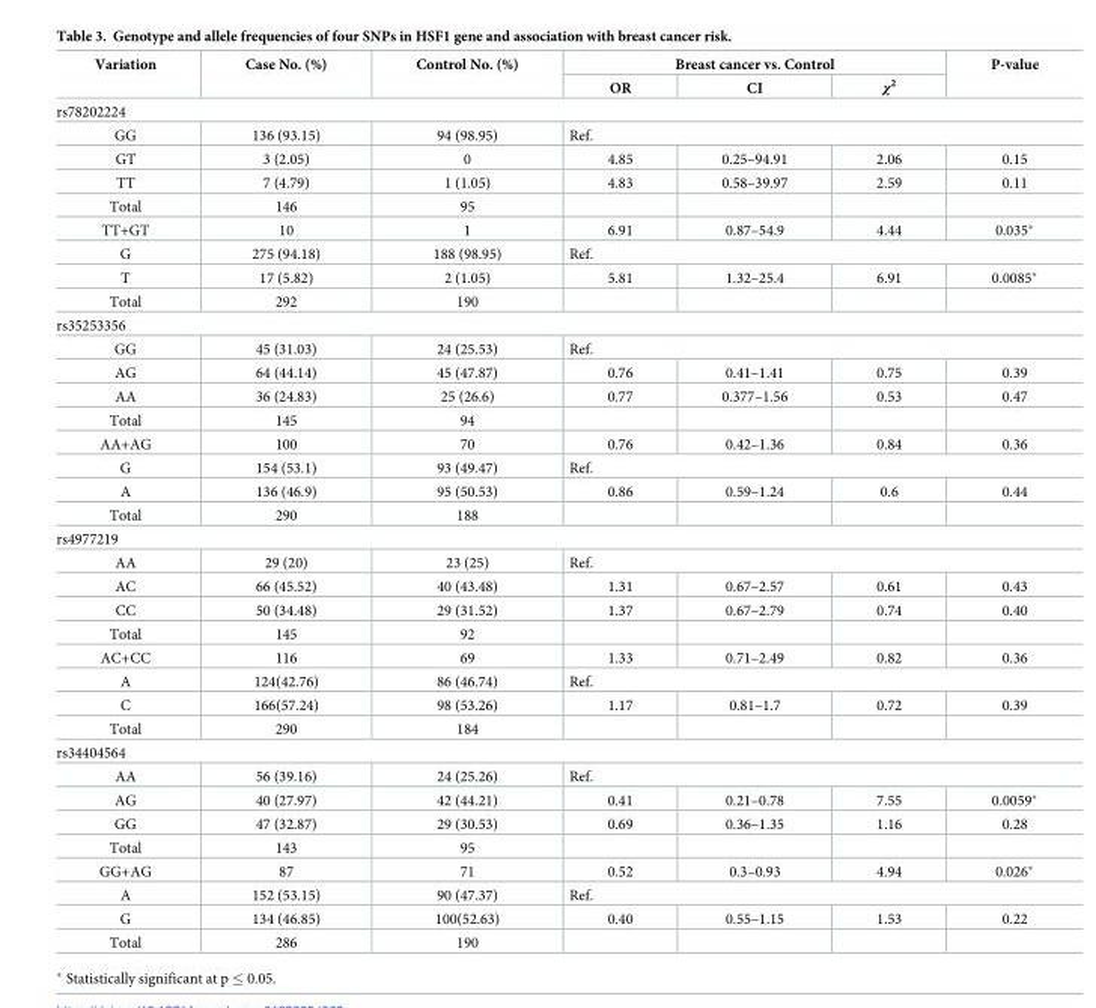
<table><thead><tr><td rowspan="2">Variation</td><td rowspan="2">Case No. (%)</td><td rowspan="2">Control No. (%)</td><td colspan="3">Breast cancer vs. Control</td><td rowspan="2">P-value</td></tr><tr><td>OR</td><td>CI</td><td>χ<sup>2</sup></td></tr></thead><tbody><tr><td colspan="7">rs78202224</td></tr><tr><td>GG</td><td>136 (93.15)</td><td>94 (98.95)</td><td colspan="4">Ref.</td></tr><tr><td>GT</td><td>3 (2.05)</td><td>0</td><td>4.85</td><td>0.25–94.91</td><td>2.06</td><td>0.15</td></tr><tr><td>TT</td><td>7 (4.79)</td><td>1 (1.05)</td><td>4.83</td><td>0.58–39.97</td><td>2.59</td><td>0.11</td></tr><tr><td>Total</td><td>146</td><td>95</td><td></td><td></td><td></td><td></td></tr><tr><td>TT+GT</td><td>10</td><td>1</td><td>6.91</td><td>0.87–54.9</td><td>4.44</td><td>0.035*</td></tr><tr><td>G</td><td>275 (94.18)</td><td>188 (98.95)</td><td colspan="4">Ref.</td></tr><tr><td>T</td><td>17 (5.82)</td><td>2 (1.05)</td><td>5.81</td><td>1.32–25.4</td><td>6.91</td><td>0.0085*</td></tr><tr><td>Total</td><td>292</td><td>190</td><td></td><td></td><td></td><td></td></tr><tr><td colspan="7">rs35253356</td></tr><tr><td>GG</td><td>45 (31.03)</td><td>24 (25.53)</td><td colspan="4">Ref.</td></tr><tr><td>AG</td><td>64 (44.14)</td><td>45 (47.87)</td><td>0.76</td><td>0.41–1.41</td><td>0.75</td><td>0.39</td></tr><tr><td>AA</td><td>36 (24.83)</td><td>25 (26.6)</td><td>0.77</td><td>0.377–1.56</td><td>0.53</td><td>0.47</td></tr><tr><td>Total</td><td>145</td><td>94</td><td></td><td></td><td></td><td></td></tr><tr><td>AA+AG</td><td>100</td><td>70</td><td>0.76</td><td>0.42–1.36</td><td>0.84</td><td>0.36</td></tr><tr><td>G</td><td>154 (53.1)</td><td>93 (49.47)</td><td colspan="4">Ref.</td></tr><tr><td>A</td><td>136 (46.9)</td><td>95 (50.53)</td><td>0.86</td><td>0.59–1.24</td><td>0.6</td><td>0.44</td></tr><tr><td>Total</td><td>290</td><td>188</td><td></td><td></td><td></td><td></td></tr><tr><td colspan="7">rs4977219</td></tr><tr><td>AA</td><td>29 (20)</td><td>23 (25)</td><td colspan="4">Ref.</td></tr><tr><td>AC</td><td>66 (45.52)</td><td>40 (43.48)</td><td>1.31</td><td>0.67–2.57</td><td>0.61</td><td>0.43</td></tr><tr><td>CC</td><td>50 (34.48)</td><td>29 (31.52)</td><td>1.37</td><td>0.67–2.79</td><td>0.74</td><td>0.40</td></tr><tr><td>Total</td><td>145</td><td>92</td><td></td><td></td><td></td><td></td></tr><tr><td>AC+CC</td><td>116</td><td>69</td><td>1.33</td><td>0.71–2.49</td><td>0.82</td><td>0.36</td></tr><tr><td>A</td><td>124(42.76)</td><td>86 (46.74)</td><td colspan="4">Ref.</td></tr><tr><td>C</td><td>166(57.24)</td><td>98 (53.26)</td><td>1.17</td><td>0.81–1.7</td><td>0.72</td><td>0.39</td></tr><tr><td>Total</td><td>290</td><td>184</td><td></td><td></td><td></td><td></td></tr><tr><td colspan="7">rs34404564</td></tr><tr><td>AA</td><td>56 (39.16)</td><td>24 (25.26)</td><td colspan="4">Ref.</td></tr><tr><td>AG</td><td>40 (27.97)</td><td>42 (44.21)</td><td>0.41</td><td>0.21–0.78</td><td>7.55</td><td>0.0059*</td></tr><tr><td>GG</td><td>47 (32.87)</td><td>29 (30.53)</td><td>0.69</td><td>0.36–1.35</td><td>1.16</td><td>0.28</td></tr><tr><td>Total</td><td>143</td><td>95</td><td></td><td></td><td></td><td></td></tr><tr><td>GG+AG</td><td>87</td><td>71</td><td>0.52</td><td>0.3–0.93</td><td>4.94</td><td>0.026*</td></tr><tr><td>A</td><td>152 (53.15)</td><td>90 (47.37)</td><td colspan="4">Ref.</td></tr><tr><td>G</td><td>134 (46.85)</td><td>100(52.63)</td><td>0.40</td><td>0.55–1.15</td><td>1.53</td><td>0.22</td></tr><tr><td>Total</td><td>286</td><td>190</td><td></td><td></td><td></td><td></td></tr></tbody></table>